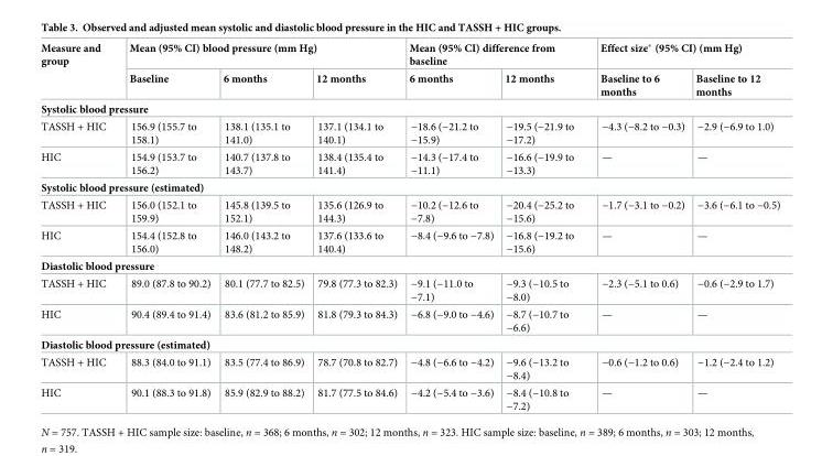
<table><thead><tr><td rowspan="2">Measure and group</td><td colspan="3">Mean (95% CI) blood pressure (mm Hg)</td><td colspan="2">Mean (95% CI) difference from baseline</td><td colspan="2">Effect size* (95% CI) (mm Hg)</td></tr><tr><td>Baseline</td><td>6 months</td><td>12 months</td><td>6 months</td><td>12 months</td><td>Baseline to 6 months</td><td>Baseline to 12 months</td></tr></thead><tbody><tr><td colspan="8">Systolic blood pressure</td></tr><tr><td>TASSH + HIC</td><td>156.9 (155.7 to 158.1)</td><td>138.1 (135.1 to 141.0)</td><td>137.1 (134.1 to 140.1)</td><td>−18.6 (−21.2 to −15.9)</td><td>−19.5 (−21.9 to −17.2)</td><td>−4.3 (−8.2 to −0.3)</td><td>−2.9 (−6.9 to 1.0)</td></tr><tr><td>HIC</td><td>154.9 (153.7 to 156.2)</td><td>140.7 (137.8 to 143.7)</td><td>138.4 (135.4 to 141.4)</td><td>−14.3 (−17.4 to −11.1)</td><td>−16.6 (−19.9 to −13.3)</td><td>—</td><td>—</td></tr><tr><td colspan="8">Systolic blood pressure (estimated)</td></tr><tr><td>TASSH + HIC</td><td>156.0 (152.1 to 159.9)</td><td>145.8 (139.5 to 152.1)</td><td>135.6 (126.9 to 144.3)</td><td>−10.2 (−12.6 to −7.8)</td><td>−20.4 (−25.2 to −15.6)</td><td>−1.7 (−3.1 to −0.2)</td><td>−3.6 (−6.1 to −0.5)</td></tr><tr><td>HIC</td><td>154.4 (152.8 to 156.0)</td><td>146.0 (143.2 to 148.2)</td><td>137.6 (133.6 to 140.4)</td><td>−8.4 (−9.6 to −7.8)</td><td>−16.8 (−19.2 to −15.6)</td><td>—</td><td>—</td></tr><tr><td colspan="8">Diastolic blood pressure</td></tr><tr><td>TASSH + HIC</td><td>89.0 (87.8 to 90.2)</td><td>80.1 (77.7 to 82.5)</td><td>79.8 (77.3 to 82.3)</td><td>−9.1 (−11.0 to −7.1)</td><td>−9.3 (−10.5 to −8.0)</td><td>−2.3 (−5.1 to 0.6)</td><td>−0.6 (−2.9 to 1.7)</td></tr><tr><td>HIC</td><td>90.4 (89.4 to 91.4)</td><td>83.6 (81.2 to 85.9)</td><td>81.8 (79.3 to 84.3)</td><td>−6.8 (−9.0 to −4.6)</td><td>−8.7 (−10.7 to −6.6)</td><td>—</td><td>—</td></tr><tr><td colspan="8">Diastolic blood pressure (estimated)</td></tr><tr><td>TASSH + HIC</td><td>88.3 (84.0 to 91.1)</td><td>83.5 (77.4 to 86.9)</td><td>78.7 (70.8 to 82.7)</td><td>−4.8 (−6.6 to −4.2)</td><td>−9.6 (−13.2 to −8.4)</td><td>−0.6 (−1.2 to 0.6)</td><td>−1.2 (−2.4 to 1.2)</td></tr><tr><td>HIC</td><td>90.1 (88.3 to 91.8)</td><td>85.9 (82.9 to 88.2)</td><td>81.7 (77.5 to 84.6)</td><td>−4.2 (−5.4 to −3.6)</td><td>−8.4 (−10.8 to −7.2)</td><td>—</td><td>—</td></tr></tbody></table>